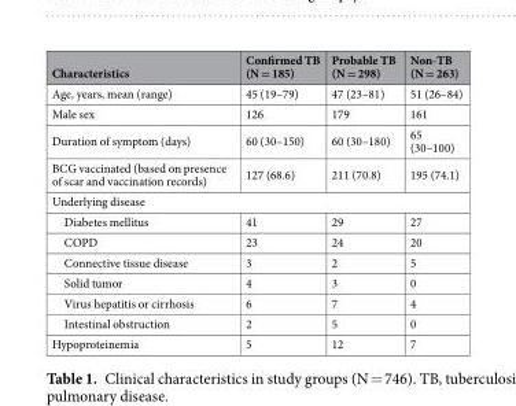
<table><thead><tr><td>Characteristics</td><td>Confirmed TB (N = 185)</td><td>Probable TB (N = 298)</td><td>Non-TB (N = 263)</td></tr></thead><tbody><tr><td>Age, years, mean (range)</td><td>45 (19–79)</td><td>47 (23–81)</td><td>51 (26–84)</td></tr><tr><td>Male sex</td><td>126</td><td>179</td><td>161</td></tr><tr><td>Duration of symptom (days)</td><td>60 (30–150)</td><td>60 (30–180)</td><td>65 (30–100)</td></tr><tr><td>BCG vaccinated (based on presence of scar and vaccination records)</td><td>127 (68.6)</td><td>211 (70.8)</td><td>195 (74.1)</td></tr><tr><td colspan="4">Underlying disease</td></tr><tr><td>Diabetes mellitus</td><td>41</td><td>29</td><td>27</td></tr><tr><td>COPD</td><td>23</td><td>24</td><td>20</td></tr><tr><td>Connective tissue disease</td><td>3</td><td>2</td><td>5</td></tr><tr><td>Solid tumor</td><td>4</td><td>3</td><td>0</td></tr><tr><td>Virus hepatitis or cirrhosis</td><td>6</td><td>7</td><td>4</td></tr><tr><td>Intestinal obstruction</td><td>2</td><td>5</td><td>0</td></tr><tr><td>Hypoproteinemia</td><td>5</td><td>12</td><td>7</td></tr></tbody></table>